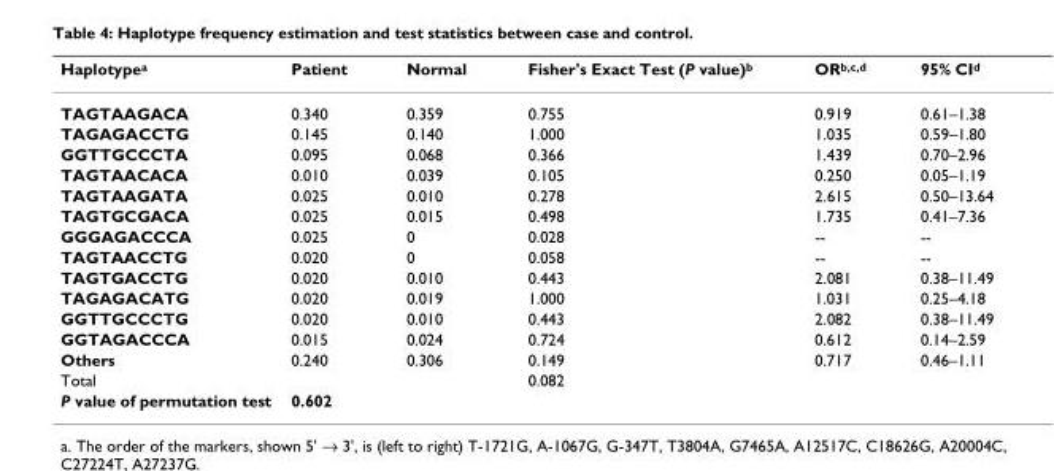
<table><thead><tr><td>Haplotypea</td><td>Patient</td><td>Normal</td><td>Fisher&#x27;s Exact Test (P value)b</td><td>ORb,c,d</td><td>95% CId</td></tr></thead><tbody><tr><td>TAGTAAGACA</td><td>0.340</td><td>0.359</td><td>0.755</td><td>0.919</td><td>0.61–1.38</td></tr><tr><td>TAGAGACCTG</td><td>0.145</td><td>0.140</td><td>1.000</td><td>1.035</td><td>0.59–1.80</td></tr><tr><td>GGTTGCCCTA</td><td>0.095</td><td>0.068</td><td>0.366</td><td>1.439</td><td>0.70–2.96</td></tr><tr><td>TAGTAACACA</td><td>0.010</td><td>0.039</td><td>0.105</td><td>0.250</td><td>0.05–1.19</td></tr><tr><td>TAGTAAGATA</td><td>0.025</td><td>0.010</td><td>0.278</td><td>2.615</td><td>0.50–13.64</td></tr><tr><td>TAGTGCGACA</td><td>0.025</td><td>0.015</td><td>0.498</td><td>1.735</td><td>0.41–7.36</td></tr><tr><td>GGGAGACCCA</td><td>0.025</td><td>0</td><td>0.028</td><td>--</td><td>--</td></tr><tr><td>TAGTAACCTG</td><td>0.020</td><td>0</td><td>0.058</td><td>--</td><td>--</td></tr><tr><td>TAGTGACCTG</td><td>0.020</td><td>0.010</td><td>0.443</td><td>2.081</td><td>0.38–11.49</td></tr><tr><td>TAGAGACATG</td><td>0.020</td><td>0.019</td><td>1.000</td><td>1.031</td><td>0.25–4.18</td></tr><tr><td>GGTTGCCCTG</td><td>0.020</td><td>0.010</td><td>0.443</td><td>2.082</td><td>0.38–11.49</td></tr><tr><td>GGTAGACCCA</td><td>0.015</td><td>0.024</td><td>0.724</td><td>0.612</td><td>0.14–2.59</td></tr><tr><td>Others</td><td>0.240</td><td>0.306</td><td>0.149</td><td>0.717</td><td>0.46–1.11</td></tr><tr><td>Total</td><td></td><td></td><td>0.082</td><td></td><td></td></tr><tr><td>P value of permutation test</td><td>0.602</td><td></td><td></td><td></td><td></td></tr></tbody></table>